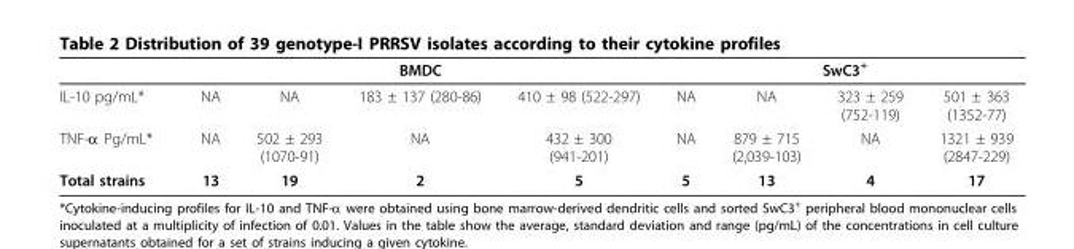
<table><thead><tr><td rowspan="2">IL-10 pg/mL*</td><td colspan="4">BMDC</td><td colspan="4">SwC3<sup>+</sup></td></tr><tr><td>NA</td><td>NA</td><td>183 ± 137 (280-86)</td><td>410 ± 98 (522-297)</td><td>NA</td><td>NA</td><td>323 ± 259 (752-119)</td><td>501 ± 363 (1352-77)</td></tr></thead><tbody><tr><td>TNF-α Pg/mL*</td><td>NA</td><td>502 ± 293 (1070-91)</td><td>NA</td><td>432 ± 300 (941-201)</td><td>NA</td><td>879 ± 715 (2,039-103)</td><td>NA</td><td>1321 ± 939 (2847-229)</td></tr><tr><td>Total strains</td><td>13</td><td>19</td><td>2</td><td>5</td><td>5</td><td>13</td><td>4</td><td>17</td></tr></tbody></table>